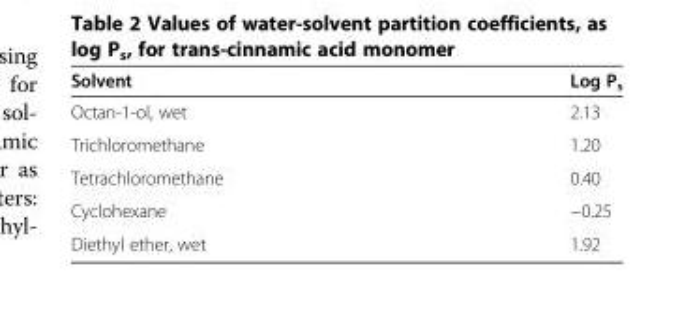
<table><thead><tr><td>Solvent</td><td>Log P<sub>s</sub></td></tr></thead><tbody><tr><td>Octan-1-ol, wet</td><td>2.13</td></tr><tr><td>Trichloromethane</td><td>1.20</td></tr><tr><td>Tetrachloromethane</td><td>0.40</td></tr><tr><td>Cyclohexane</td><td>−0.25</td></tr><tr><td>Diethyl ether, wet</td><td>1.92</td></tr></tbody></table>